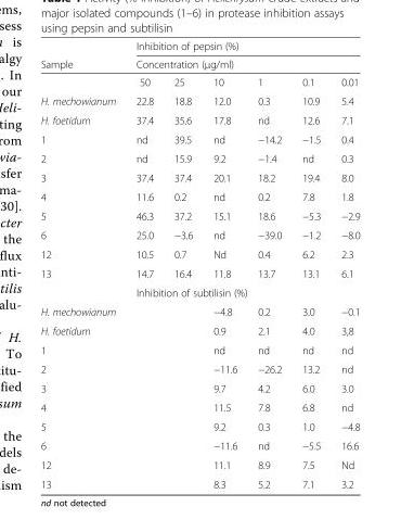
<table><thead><tr><td rowspan="3">Sample</td><td rowspan="2" colspan="6">Inhibition of pepsin (%) Concentration (μg/ml)</td></tr><tr></tr><tr><td>50</td><td>25</td><td>10</td><td>1</td><td>0.1</td><td>0.01</td></tr></thead><tbody><tr><td>H. mechowianum</td><td>22.8</td><td>18.8</td><td>12.0</td><td>0.3</td><td>10.9</td><td>5.4</td></tr><tr><td>H. foetidum</td><td>37.4</td><td>35.6</td><td>17.8</td><td>nd</td><td>12.6</td><td>7.1</td></tr><tr><td>1</td><td>nd</td><td>39.5</td><td>nd</td><td>−14.2</td><td>−1.5</td><td>0.4</td></tr><tr><td>2</td><td>nd</td><td>15.9</td><td>9.2</td><td>−1.4</td><td>nd</td><td>0.3</td></tr><tr><td>3</td><td>37.4</td><td>37.4</td><td>20.1</td><td>18.2</td><td>19.4</td><td>8.0</td></tr><tr><td>4</td><td>11.6</td><td>0.2</td><td>nd</td><td>0.2</td><td>7.8</td><td>1.8</td></tr><tr><td>5</td><td>46.3</td><td>37.2</td><td>15.1</td><td>18.6</td><td>−5.3</td><td>−2.9</td></tr><tr><td>6</td><td>25.0</td><td>−3.6</td><td>nd</td><td>−39.0</td><td>−1.2</td><td>−8.0</td></tr><tr><td>12</td><td>10.5</td><td>0.7</td><td>Nd</td><td>0.4</td><td>6.2</td><td>2.3</td></tr><tr><td rowspan="2">13</td><td>14.7</td><td>16.4</td><td>11.8</td><td>13.7</td><td>13.1</td><td>6.1</td></tr><tr><td colspan="6">Inhibition of subtilisin (%)</td></tr><tr><td>H. mechowianum</td><td></td><td></td><td>−4.8</td><td>0.2</td><td>3.0</td><td>−0.1</td></tr><tr><td>H. foetidum</td><td></td><td></td><td>0.9</td><td>2.1</td><td>4.0</td><td>3,8</td></tr><tr><td>1</td><td></td><td></td><td>nd</td><td>nd</td><td>nd</td><td>nd</td></tr><tr><td>2</td><td></td><td></td><td>−11.6</td><td>−26.2</td><td>13.2</td><td>nd</td></tr><tr><td>3</td><td></td><td></td><td>9.7</td><td>4.2</td><td>6.0</td><td>3.0</td></tr><tr><td>4</td><td></td><td></td><td>11.5</td><td>7.8</td><td>6.8</td><td>nd</td></tr><tr><td>5</td><td></td><td></td><td>9.2</td><td>0.3</td><td>1.0</td><td>−4.8</td></tr><tr><td>6</td><td></td><td></td><td>−11.6</td><td>nd</td><td>−5.5</td><td>16.6</td></tr><tr><td>12</td><td></td><td></td><td>11.1</td><td>8.9</td><td>7.5</td><td>Nd</td></tr><tr><td>13</td><td></td><td></td><td>8.3</td><td>5.2</td><td>7.1</td><td>3.2</td></tr></tbody></table>